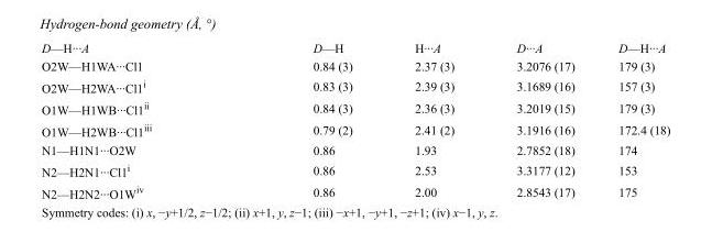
<table><tbody><tr><td>D—H···A</td><td>D—H</td><td>H···A</td><td>D···A</td><td>D—H···A</td></tr><tr><td>O2W—H1WA···Cl1</td><td>0.84 (3)</td><td>2.37 (3)</td><td>3.2076 (17)</td><td>179 (3)</td></tr><tr><td>O2W—H2WA···Cl1<sup>i</sup></td><td>0.83 (3)</td><td>2.39 (3)</td><td>3.1689 (16)</td><td>157 (3)</td></tr><tr><td>O1W—H1WB···Cl1<sup>ii</sup></td><td>0.84 (3)</td><td>2.36 (3)</td><td>3.2019 (15)</td><td>179 (3)</td></tr><tr><td>O1W—H2WB···Cl1<sup>iii</sup></td><td>0.79 (2)</td><td>2.41 (2)</td><td>3.1916 (16)</td><td>172.4 (18)</td></tr><tr><td>N1—H1N1···O2W</td><td>0.86</td><td>1.93</td><td>2.7852 (18)</td><td>174</td></tr><tr><td>N2—H2N1···Cl1<sup>i</sup></td><td>0.86</td><td>2.53</td><td>3.3177 (12)</td><td>153</td></tr><tr><td>N2—H2N2···O1W<sup>iv</sup></td><td>0.86</td><td>2.00</td><td>2.8543 (17)</td><td>175</td></tr></tbody></table>